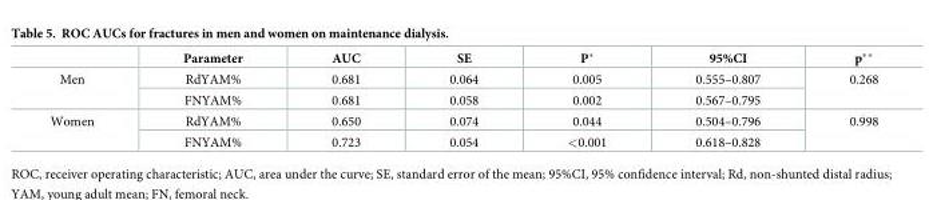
<table><thead><tr><td></td><td>Parameter</td><td>AUC</td><td>SE</td><td>P*</td><td>95%CI</td><td>p**</td></tr></thead><tbody><tr><td rowspan="2">Men</td><td>RdYAM%</td><td>0.681</td><td>0.064</td><td>0.005</td><td>0.555–0.807</td><td rowspan="2">0.268</td></tr><tr><td>FNYAM%</td><td>0.681</td><td>0.058</td><td>0.002</td><td>0.567–0.795</td></tr><tr><td rowspan="2">Women</td><td>RdYAM%</td><td>0.650</td><td>0.074</td><td>0.044</td><td>0.504–0.796</td><td rowspan="2">0.998</td></tr><tr><td>FNYAM%</td><td>0.723</td><td>0.054</td><td>&lt;0.001</td><td>0.618–0.828</td></tr></tbody></table>